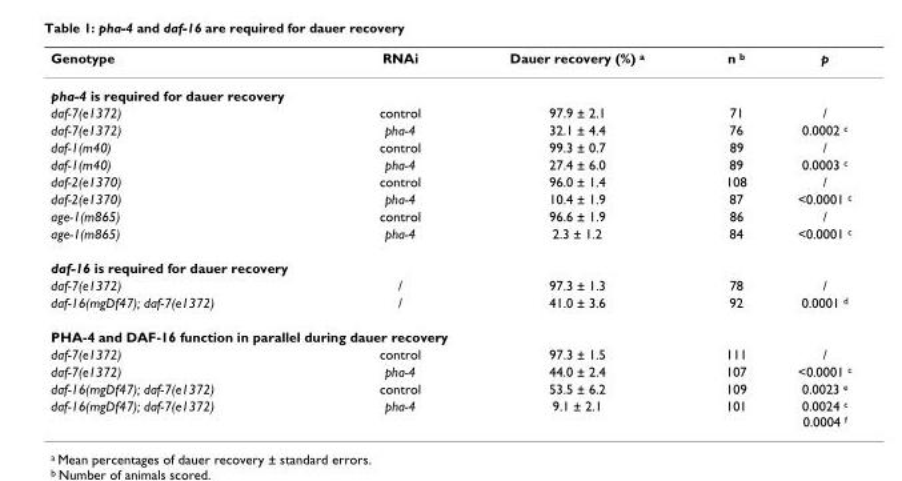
<table><thead><tr><td>Genotype</td><td>RNAi</td><td>Dauer recovery (%) <sup>a</sup></td><td>n <sup>b</sup></td><td>p</td></tr></thead><tbody><tr><td colspan="5">pha-4 is required for dauer recovery</td></tr><tr><td>daf-7(e1372)</td><td>control</td><td>97.9 ± 2.1</td><td>71</td><td>/</td></tr><tr><td>daf-7(e1372)</td><td>pha-4</td><td>32.1 ± 4.4</td><td>76</td><td>0.0002 <sup>c</sup></td></tr><tr><td>daf-1(m40)</td><td>control</td><td>99.3 ± 0.7</td><td>89</td><td>/</td></tr><tr><td>daf-1(m40)</td><td>pha-4</td><td>27.4 ± 6.0</td><td>89</td><td>0.0003 <sup>c</sup></td></tr><tr><td>daf-2(e1370)</td><td>control</td><td>96.0 ± 1.4</td><td>108</td><td>/</td></tr><tr><td>daf-2(e1370)</td><td>pha-4</td><td>10.4 ± 1.9</td><td>87</td><td>&lt;0.0001 <sup>c</sup></td></tr><tr><td>age-1(m865)</td><td>control</td><td>96.6 ± 1.9</td><td>86</td><td>/</td></tr><tr><td>age-1(m865)</td><td>pha-4</td><td>2.3 ± 1.2</td><td>84</td><td>&lt;0.0001 <sup>c</sup></td></tr><tr><td colspan="5">daf-16 is required for dauer recovery</td></tr><tr><td>daf-7(e1372)</td><td>/</td><td>97.3 ± 1.3</td><td>78</td><td>/</td></tr><tr><td>daf-16(mgDf47); daf-7(e1372)</td><td>/</td><td>41.0 ± 3.6</td><td>92</td><td>0.0001 <sup>d</sup></td></tr><tr><td colspan="5">PHA-4 and DAF-16 function in parallel during dauer recovery</td></tr><tr><td>daf-7(e1372)</td><td>control</td><td>97.3 ± 1.5</td><td>111</td><td>/</td></tr><tr><td>daf-7(e1372)</td><td>pha-4</td><td>44.0 ± 2.4</td><td>107</td><td>&lt;0.0001 <sup>c</sup></td></tr><tr><td>daf-16(mgDf47); daf-7(e1372)</td><td>control</td><td>53.5 ± 6.2</td><td>109</td><td>0.0023 <sup>e</sup></td></tr><tr><td>daf-16(mgDf47); daf-7(e1372)</td><td>pha-4</td><td>9.1 ± 2.1</td><td>101</td><td>0.0024 <sup>c</sup> 0.0004 <sup>f</sup></td></tr></tbody></table>